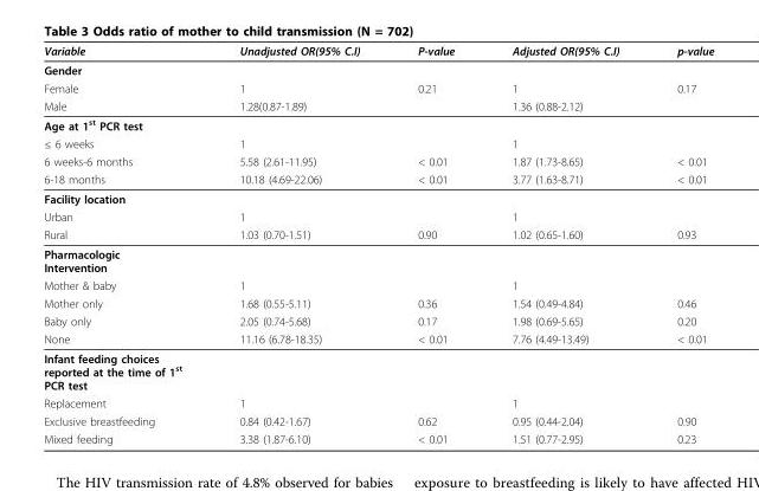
<table><thead><tr><td>Variable</td><td>Unadjusted OR(95% C.I)</td><td>P-value</td><td>Adjusted OR(95% C.I)</td><td>p-value</td></tr></thead><tbody><tr><td colspan="5">Gender</td></tr><tr><td>Female</td><td>1</td><td>0.21</td><td>1</td><td>0.17</td></tr><tr><td>Male</td><td>1.28(0.87-1.89)</td><td></td><td>1.36 (0.88-2.12)</td><td></td></tr><tr><td colspan="5">Age at 1<sup>st</sup> PCR test</td></tr><tr><td>≤ 6 weeks</td><td>1</td><td></td><td>1</td><td></td></tr><tr><td>6 weeks-6 months</td><td>5.58 (2.61-11.95)</td><td>&lt; 0.01</td><td>1.87 (1.73-8.65)</td><td>&lt; 0.01</td></tr><tr><td>6-18 months</td><td>10.18 (4.69-22.06)</td><td>&lt; 0.01</td><td>3.77 (1.63-8.71)</td><td>&lt; 0.01</td></tr><tr><td colspan="5">Facility location</td></tr><tr><td>Urban</td><td>1</td><td></td><td>1</td><td></td></tr><tr><td>Rural</td><td>1.03 (0.70-1.51)</td><td>0.90</td><td>1.02 (0.65-1.60)</td><td>0.93</td></tr><tr><td colspan="5">Pharmacologic Intervention</td></tr><tr><td>Mother &amp; baby</td><td>1</td><td></td><td>1</td><td></td></tr><tr><td>Mother only</td><td>1.68 (0.55-5.11)</td><td>0.36</td><td>1.54 (0.49-4.84)</td><td>0.46</td></tr><tr><td>Baby only</td><td>2.05 (0.74-5.68)</td><td>0.17</td><td>1.98 (0.69-5.65)</td><td>0.20</td></tr><tr><td>None</td><td>11.16 (6.78-18.35)</td><td>&lt; 0.01</td><td>7.76 (4.49-13.49)</td><td>&lt; 0.01</td></tr><tr><td colspan="5">Infant feeding choices reported at the time of 1<sup>st</sup> PCR test</td></tr><tr><td>Replacement</td><td>1</td><td></td><td>1</td><td></td></tr><tr><td>Exclusive breastfeeding</td><td>0.84 (0.42-1.67)</td><td>0.62</td><td>0.95 (0.44-2.04)</td><td>0.90</td></tr><tr><td>Mixed feeding</td><td>3.38 (1.87-6.10)</td><td>&lt; 0.01</td><td>1.51 (0.77-2.95)</td><td>0.23</td></tr></tbody></table>